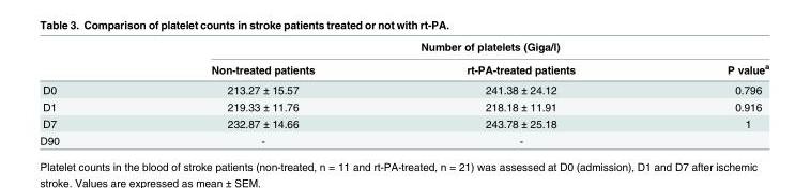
<table><thead><tr><td rowspan="2"></td><td colspan="3">Number of platelets (Giga/l)</td></tr><tr><td>Non-treated patients</td><td>rt-PA-treated patients</td><td>P value<sup>a</sup></td></tr></thead><tbody><tr><td>D0</td><td>213.27 ± 15.57</td><td>241.38 ± 24.12</td><td>0.796</td></tr><tr><td>D1</td><td>219.33 ± 11.76</td><td>218.18 ± 11.91</td><td>0.916</td></tr><tr><td>D7</td><td>232.87 ± 14.66</td><td>243.78 ± 25.18</td><td>1</td></tr><tr><td>D90</td><td>-</td><td>-</td><td></td></tr></tbody></table>